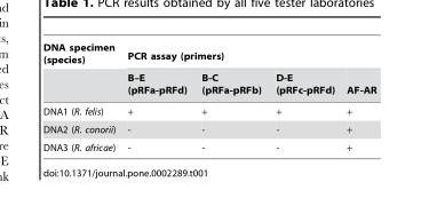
<table><thead><tr><td rowspan="2">DNA specimen (species)</td><td colspan="4">PCR assay (primers)</td></tr><tr><td>B–E (pRFa-pRFd)</td><td>B-C (pRFa-pRFb)</td><td>D-E (pRFc-pRFd)</td><td>AF-AR</td></tr></thead><tbody><tr><td>DNA1 (R. felis)</td><td>+</td><td>+</td><td>+</td><td>+</td></tr><tr><td>DNA2 (R. conorii)</td><td>-</td><td>-</td><td>-</td><td>+</td></tr><tr><td>DNA3 (R. africae)</td><td>-</td><td>-</td><td>-</td><td>+</td></tr></tbody></table>